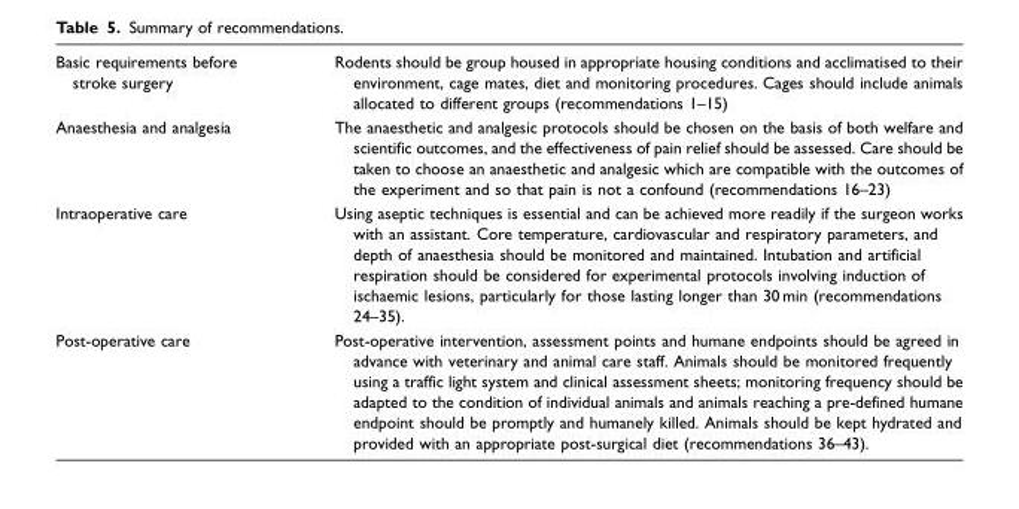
<table><tbody><tr><td>Basic requirements before stroke surgery</td><td>Rodents should be group housed in appropriate housing conditions and acclimatised to their environment, cage mates, diet and monitoring procedures. Cages should include animals allocated to different groups (recommendations 1–15)</td></tr><tr><td>Anaesthesia and analgesia</td><td>The anaesthetic and analgesic protocols should be chosen on the basis of both welfare and scientific outcomes, and the effectiveness of pain relief should be assessed. Care should be taken to choose an anaesthetic and analgesic which are compatible with the outcomes of the experiment and so that pain is not a confound (recommendations 16–23)</td></tr><tr><td>Intraoperative care</td><td>Using aseptic techniques is essential and can be achieved more readily if the surgeon works with an assistant. Core temperature, cardiovascular and respiratory parameters, and depth of anaesthesia should be monitored and maintained. Intubation and artificial respiration should be considered for experimental protocols involving induction of ischaemic lesions, particularly for those lasting longer than 30 min (recommendations 24–35).</td></tr><tr><td>Post-operative care</td><td>Post-operative intervention, assessment points and humane endpoints should be agreed in advance with veterinary and animal care staff. Animals should be monitored frequently using a traffic light system and clinical assessment sheets; monitoring frequency should be adapted to the condition of individual animals and animals reaching a pre-defined humane endpoint should be promptly and humanely killed. Animals should be kept hydrated and provided with an appropriate post-surgical diet (recommendations 36–43).</td></tr></tbody></table>